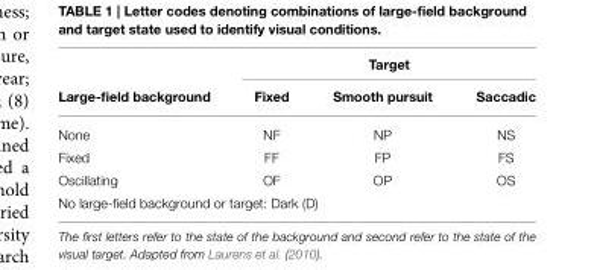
<table><thead><tr><td rowspan="2">Large-field background</td><td colspan="3">Target</td></tr><tr><td>Fixed</td><td>Smooth pursuit</td><td>Saccadic</td></tr></thead><tbody><tr><td>None</td><td>NF</td><td>NP</td><td>NS</td></tr><tr><td>Fixed</td><td>FF</td><td>FP</td><td>FS</td></tr><tr><td>Oscillating</td><td>OF</td><td>OP</td><td>OS</td></tr><tr><td colspan="4">No large-field background or target: Dark (D)</td></tr></tbody></table>